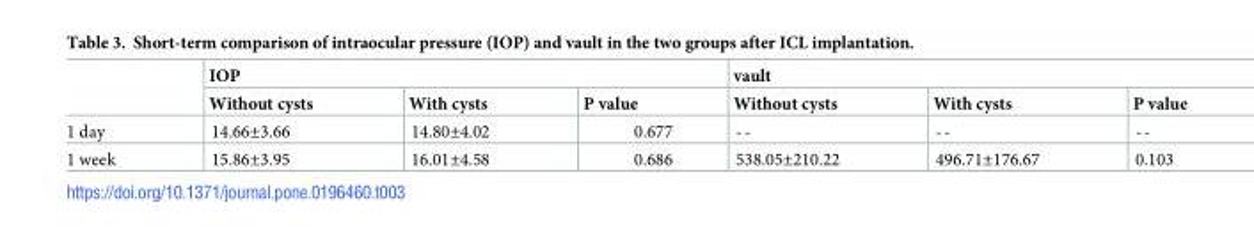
<table><thead><tr><td rowspan="2"></td><td colspan="3">IOP</td><td colspan="3">vault</td></tr><tr><td>Without cysts</td><td>With cysts</td><td>P value</td><td>Without cysts</td><td>With cysts</td><td>P value</td></tr></thead><tbody><tr><td>1 day</td><td>14.66±3.66</td><td>14.80±4.02</td><td>0.677</td><td>--</td><td>--</td><td>--</td></tr><tr><td>1 week</td><td>15.86±3.95</td><td>16.01±4.58</td><td>0.686</td><td>538.05±210.22</td><td>496.71±176.67</td><td>0.103</td></tr></tbody></table>